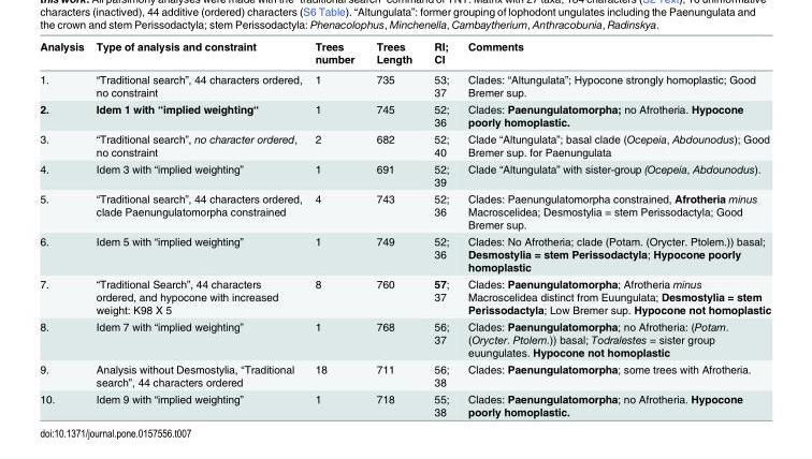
<table><thead><tr><td>Analysis</td><td>Type of analysis and constraint</td><td>Trees number</td><td>Trees Length</td><td>RI; CI</td><td>Comments</td></tr></thead><tbody><tr><td>1.</td><td>“Traditional search”, 44 characters ordered, no constraint</td><td>1</td><td>735</td><td>53; 37</td><td>Clades: “Altungulata”; Hypocone strongly homoplastic; Good Bremer sup.</td></tr><tr><td>2.</td><td>Idem 1 with “implied weighting“</td><td>1</td><td>745</td><td>52; 36</td><td>Clades: Paenungulatomorpha; no Afrotheria. Hypocone poorly homoplastic.</td></tr><tr><td>3.</td><td>“Traditional search”, no character ordered, no constraint</td><td>2</td><td>682</td><td>52; 40</td><td>Clade “Altungulata”; basal clade (Ocepeia, Abdounodus); Good Bremer sup. for Paenungulata</td></tr><tr><td>4.</td><td>Idem 3 with “implied weighting”</td><td>1</td><td>691</td><td>52; 39</td><td>Clade “Altungulata” with sister-group (Ocepeia, Abdounodus).</td></tr><tr><td>5.</td><td>“Traditional search”, 44 characters ordered, clade Paenungulatomorpha constrained</td><td>4</td><td>743</td><td>52; 36</td><td>Clades: Paenungulatomorpha constrained, Afrotheria minus Macroscelidea; Desmostylia = stem Perissodactyla; Good Bremer sup.</td></tr><tr><td>6.</td><td>Idem 5 with “implied weighting”</td><td>1</td><td>749</td><td>52; 36</td><td>Clades: No Afrotheria; clade (Potam. (Orycter. Ptolem.)) basal; Desmostylia = stem Perissodactyla; Hypocone poorly homoplastic</td></tr><tr><td>7.</td><td>“Traditional Search”, 44 characters ordered, and hypocone with increased weight: K98 X 5</td><td>8</td><td>760</td><td>57; 37</td><td>Clades: Paenungulatomorpha; Afrotheria minus Macroscelidea distinct from Euungulata; Desmostylia = stem Perissodactyla; Low Bremer sup. Hypocone not homoplastic</td></tr><tr><td>8.</td><td>Idem 7 with “implied weighting”</td><td>1</td><td>768</td><td>56; 37</td><td>Clades: Paenungulatomorpha; no Afrotheria: (Potam. (Orycter. Ptolem.)) basal; Todralestes = sister group euungulates. Hypocone not homoplastic</td></tr><tr><td>9.</td><td>Analysis without Desmostylia, “Traditional search”, 44 characters ordered</td><td>18</td><td>711</td><td>56; 38</td><td>Clades: Paenungulatomorpha; some trees with Afrotheria.</td></tr><tr><td>10.</td><td>Idem 9 with “implied weighting”</td><td>1</td><td>718</td><td>55; 38</td><td>Clades: Paenungulatomorpha; no Afrotheria. Hypocone poorly homoplastic.</td></tr></tbody></table>